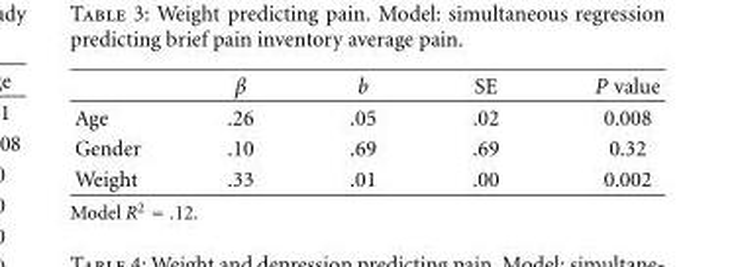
<table><thead><tr><td></td><td>β</td><td>b</td><td>SE</td><td>P value</td></tr></thead><tbody><tr><td>Age</td><td>.26</td><td>.05</td><td>.02</td><td>0.008</td></tr><tr><td>Gender</td><td>.10</td><td>.69</td><td>.69</td><td>0.32</td></tr><tr><td>Weight</td><td>.33</td><td>.01</td><td>.00</td><td>0.002</td></tr></tbody></table>